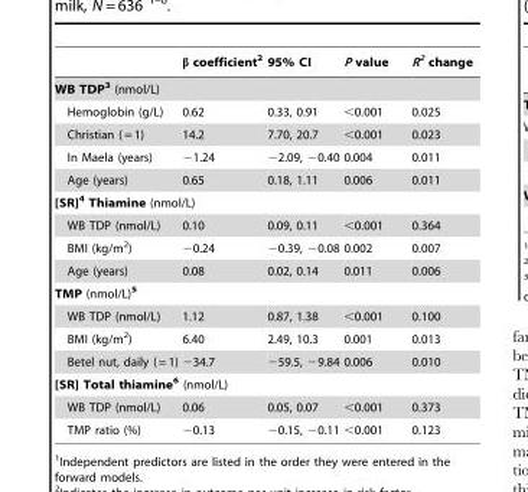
<table><thead><tr><td></td><td>β coefficient<sup>2</sup></td><td>95% CI</td><td>P value</td><td>R2 change</td></tr></thead><tbody><tr><td colspan="5">WB TDP3 (nmol/L)</td></tr><tr><td>Hemoglobin (g/L)</td><td>0.62</td><td>0.33, 0.91</td><td>&lt;0.001</td><td>0.025</td></tr><tr><td>Christian ( = 1)</td><td>14.2</td><td>7.70, 20.7</td><td>&lt;0.001</td><td>0.023</td></tr><tr><td>In Maela (years)</td><td>−1.24</td><td>−2.09, −0.40</td><td>0.004</td><td>0.011</td></tr><tr><td>Age (years)</td><td>0.65</td><td>0.18, 1.11</td><td>0.006</td><td>0.011</td></tr><tr><td colspan="5">[SR]4 Thiamine (nmol/L)</td></tr><tr><td>WB TDP (nmol/L)</td><td>0.10</td><td>0.09, 0.11</td><td>&lt;0.001</td><td>0.364</td></tr><tr><td>BMI (kg/m<sup>2</sup>)</td><td>−0.24</td><td>−0.39, −0.08</td><td>0.002</td><td>0.007</td></tr><tr><td>Age (years)</td><td>0.08</td><td>0.02, 0.14</td><td>0.011</td><td>0.006</td></tr><tr><td colspan="5">TMP (nmol/L)<sup>5</sup></td></tr><tr><td>WB TDP (nmol/L)</td><td>1.12</td><td>0.87, 1.38</td><td>&lt;0.001</td><td>0.100</td></tr><tr><td>BMI (kg/m<sup>2</sup>)</td><td>6.40</td><td>2.49, 10.3</td><td>0.001</td><td>0.013</td></tr><tr><td>Betel nut, daily ( = 1)</td><td>−34.7</td><td>−59.5, −9.84</td><td>0.006</td><td>0.010</td></tr><tr><td colspan="5">[SR] Total thiamine6 (nmol/L)</td></tr><tr><td>WB TDP (nmol/L)</td><td>0.06</td><td>0.05, 0.07</td><td>&lt;0.001</td><td>0.373</td></tr><tr><td>TMP ratio (%)</td><td>−0.13</td><td>−0.15, −0.11</td><td>&lt;0.001</td><td>0.123</td></tr></tbody></table>